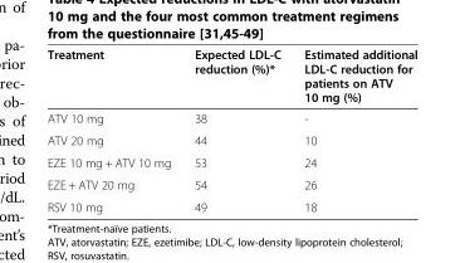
<table><thead><tr><td>Treatment</td><td>Expected LDL-C reduction (%)*</td><td>Estimated additional LDL-C reduction for patients on ATV 10 mg (%)</td></tr></thead><tbody><tr><td>ATV 10 mg</td><td>38</td><td>-</td></tr><tr><td>ATV 20 mg</td><td>44</td><td>10</td></tr><tr><td>EZE 10 mg + ATV 10 mg</td><td>53</td><td>24</td></tr><tr><td>EZE + ATV 20 mg</td><td>54</td><td>26</td></tr><tr><td>RSV 10 mg</td><td>49</td><td>18</td></tr></tbody></table>